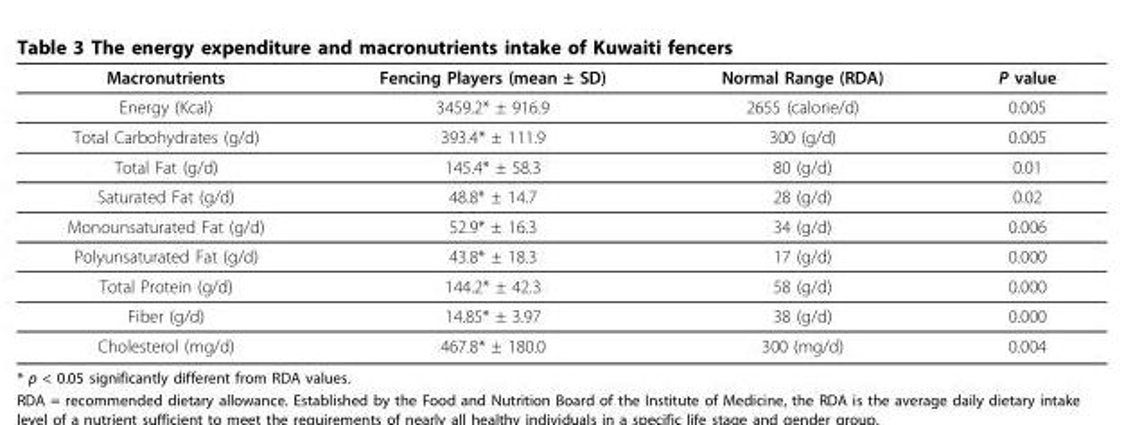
<table><thead><tr><td>Macronutrients</td><td>Fencing Players (mean ± SD)</td><td>Normal Range (RDA)</td><td>P value</td></tr></thead><tbody><tr><td>Energy (Kcal)</td><td>3459.2* ± 916.9</td><td>2655 (calorie/d)</td><td>0.005</td></tr><tr><td>Total Carbohydrates (g/d)</td><td>393.4* ± 111.9</td><td>300 (g/d)</td><td>0.005</td></tr><tr><td>Total Fat (g/d)</td><td>145.4* ± 58.3</td><td>80 (g/d)</td><td>0.01</td></tr><tr><td>Saturated Fat (g/d)</td><td>48.8* ± 14.7</td><td>28 (g/d)</td><td>0.02</td></tr><tr><td>Monounsaturated Fat (g/d)</td><td>52.9* ± 16.3</td><td>34 (g/d)</td><td>0.006</td></tr><tr><td>Polyunsaturated Fat (g/d)</td><td>43.8* ± 18.3</td><td>17 (g/d)</td><td>0.000</td></tr><tr><td>Total Protein (g/d)</td><td>144.2* ± 42.3</td><td>58 (g/d)</td><td>0.000</td></tr><tr><td>Fiber (g/d)</td><td>14.85* ± 3.97</td><td>38 (g/d)</td><td>0.000</td></tr><tr><td>Cholesterol (mg/d)</td><td>467.8* ± 180.0</td><td>300 (mg/d)</td><td>0.004</td></tr></tbody></table>